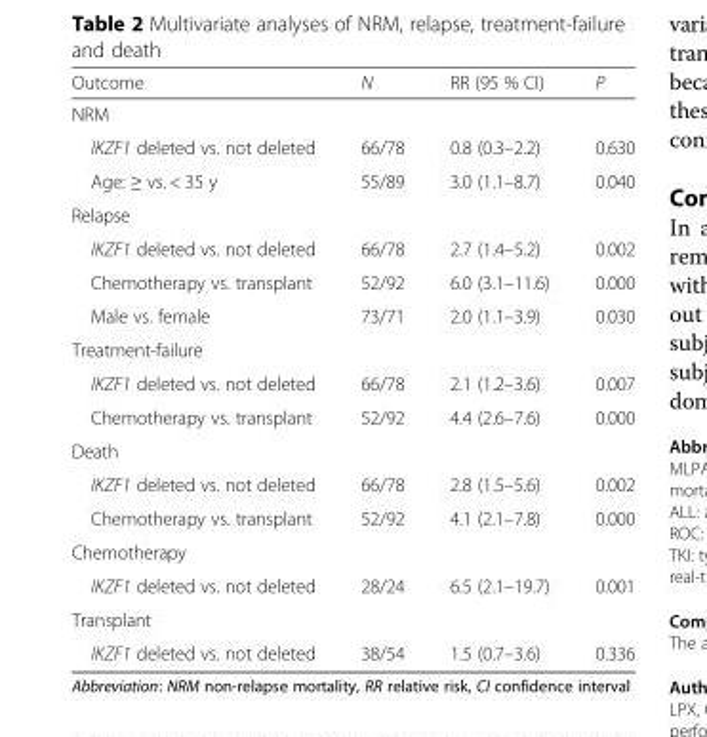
<table><thead><tr><td>Outcome</td><td>N</td><td>RR (95 % CI)</td><td>P</td></tr></thead><tbody><tr><td colspan="4">NRM</td></tr><tr><td>IKZF1 deleted vs. not deleted</td><td>66/78</td><td>0.8 (0.3–2.2)</td><td>0.630</td></tr><tr><td>Age: ≥ vs. &lt; 35 y</td><td>55/89</td><td>3.0 (1.1–8.7)</td><td>0.040</td></tr><tr><td colspan="4">Relapse</td></tr><tr><td>IKZF1 deleted vs. not deleted</td><td>66/78</td><td>2.7 (1.4–5.2)</td><td>0.002</td></tr><tr><td>Chemotherapy vs. transplant</td><td>52/92</td><td>6.0 (3.1–11.6)</td><td>0.000</td></tr><tr><td>Male vs. female</td><td>73/71</td><td>2.0 (1.1–3.9)</td><td>0.030</td></tr><tr><td colspan="4">Treatment-failure</td></tr><tr><td>IKZF1 deleted vs. not deleted</td><td>66/78</td><td>2.1 (1.2–3.6)</td><td>0.007</td></tr><tr><td>Chemotherapy vs. transplant</td><td>52/92</td><td>4.4 (2.6–7.6)</td><td>0.000</td></tr><tr><td colspan="4">Death</td></tr><tr><td>IKZF1 deleted vs. not deleted</td><td>66/78</td><td>2.8 (1.5–5.6)</td><td>0.002</td></tr><tr><td>Chemotherapy vs. transplant</td><td>52/92</td><td>4.1 (2.1–7.8)</td><td>0.000</td></tr><tr><td colspan="4">Chemotherapy</td></tr><tr><td>IKZF1 deleted vs. not deleted</td><td>28/24</td><td>6.5 (2.1–19.7)</td><td>0.001</td></tr><tr><td colspan="4">Transplant</td></tr><tr><td>IKZF1 deleted vs. not deleted</td><td>38/54</td><td>1.5 (0.7–3.6)</td><td>0.336</td></tr></tbody></table>